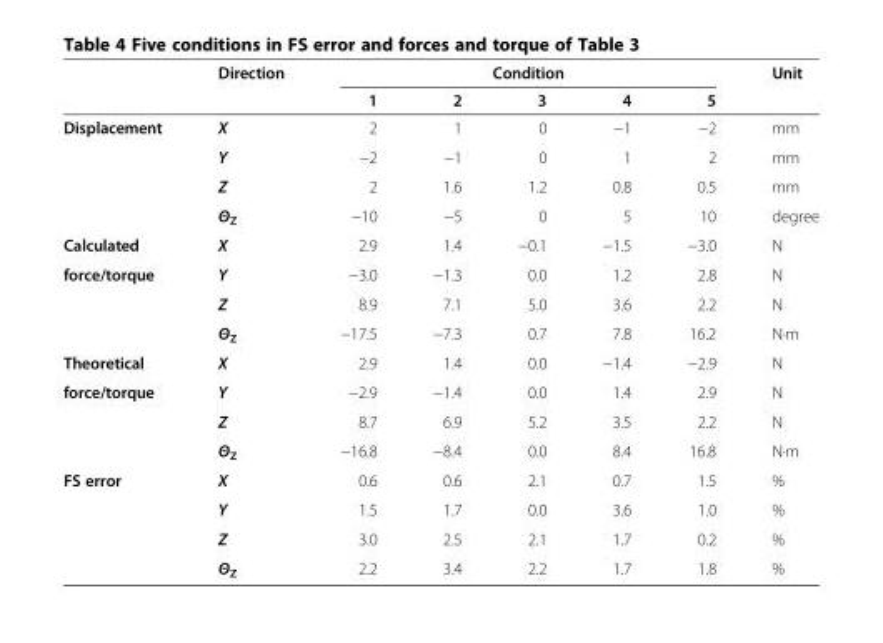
<table><thead><tr><td rowspan="2"></td><td rowspan="2">Direction</td><td colspan="5">Condition</td><td rowspan="2">Unit</td></tr><tr><td>1</td><td>2</td><td>3</td><td>4</td><td>5</td></tr></thead><tbody><tr><td rowspan="4">Displacement</td><td>X</td><td>2</td><td>1</td><td>0</td><td>−1</td><td>−2</td><td>mm</td></tr><tr><td>Y</td><td>−2</td><td>−1</td><td>0</td><td>1</td><td>2</td><td>mm</td></tr><tr><td>Z</td><td>2</td><td>1.6</td><td>1.2</td><td>0.8</td><td>0.5</td><td>mm</td></tr><tr><td>Θ<sub>Z</sub></td><td>−10</td><td>−5</td><td>0</td><td>5</td><td>10</td><td>degree</td></tr><tr><td>Calculated</td><td>X</td><td>2.9</td><td>1.4</td><td>−0.1</td><td>−1.5</td><td>−3.0</td><td>N</td></tr><tr><td rowspan="3">force/torque</td><td>Y</td><td>−3.0</td><td>−1.3</td><td>0.0</td><td>1.2</td><td>2.8</td><td>N</td></tr><tr><td>Z</td><td>8.9</td><td>7.1</td><td>5.0</td><td>3.6</td><td>2.2</td><td>N</td></tr><tr><td>Θ<sub>Z</sub></td><td>−17.5</td><td>−7.3</td><td>0.7</td><td>7.8</td><td>16.2</td><td>N·m</td></tr><tr><td>Theoretical</td><td>X</td><td>2.9</td><td>1.4</td><td>0.0</td><td>−1.4</td><td>−2.9</td><td>N</td></tr><tr><td rowspan="3">force/torque</td><td>Y</td><td>−2.9</td><td>−1.4</td><td>0.0</td><td>1.4</td><td>2.9</td><td>N</td></tr><tr><td>Z</td><td>8.7</td><td>6.9</td><td>5.2</td><td>3.5</td><td>2.2</td><td>N</td></tr><tr><td>Θ<sub>Z</sub></td><td>−16.8</td><td>−8.4</td><td>0.0</td><td>8.4</td><td>16.8</td><td>N·m</td></tr><tr><td rowspan="4">FS error</td><td>X</td><td>0.6</td><td>0.6</td><td>2.1</td><td>0.7</td><td>1.5</td><td>%</td></tr><tr><td>Y</td><td>1.5</td><td>1.7</td><td>0.0</td><td>3.6</td><td>1.0</td><td>%</td></tr><tr><td>Z</td><td>3.0</td><td>2.5</td><td>2.1</td><td>1.7</td><td>0.2</td><td>%</td></tr><tr><td>Θ<sub>Z</sub></td><td>2.2</td><td>3.4</td><td>2.2</td><td>1.7</td><td>1.8</td><td>%</td></tr></tbody></table>